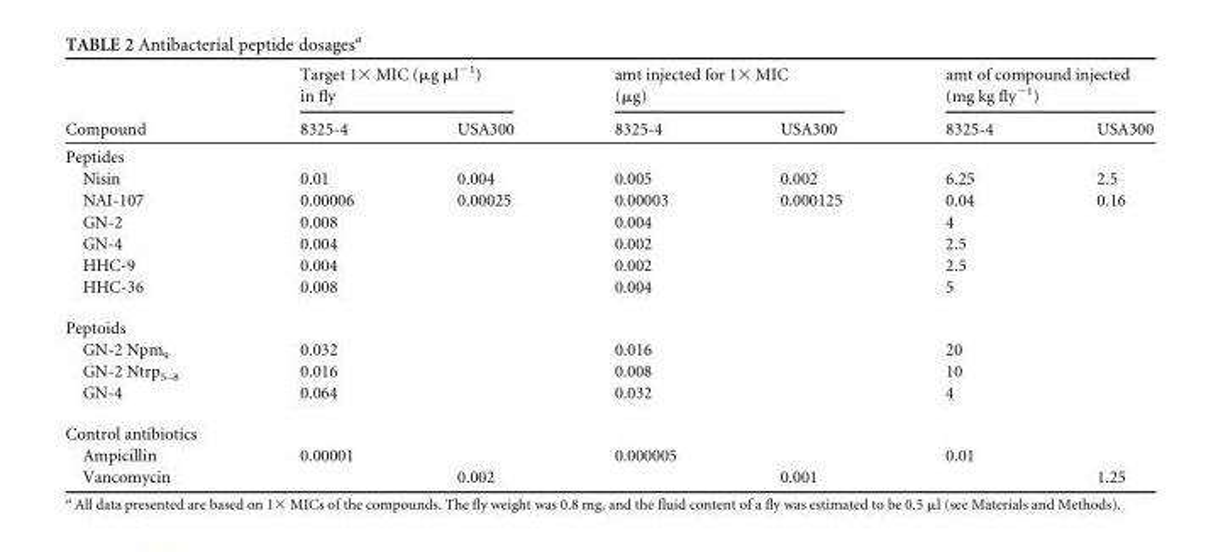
<table><thead><tr><td rowspan="2">Compound</td><td colspan="2">Target 1× MIC (μg μl<sup>−1</sup>) in fly</td><td colspan="2">amt injected for 1× MIC (μg)</td><td colspan="2">amt of compound injected (mg kg fly<sup>−1</sup>)</td></tr><tr><td>8325-4</td><td>USA300</td><td>8325-4</td><td>USA300</td><td>8325-4</td><td>USA300</td></tr></thead><tbody><tr><td colspan="7">Peptides</td></tr><tr><td>Nisin</td><td>0.01</td><td>0.004</td><td>0.005</td><td>0.002</td><td>6.25</td><td>2.5</td></tr><tr><td>NAI-107</td><td>0.00006</td><td>0.00025</td><td>0.00003</td><td>0.000125</td><td>0.04</td><td>0.16</td></tr><tr><td>GN-2</td><td>0.008</td><td></td><td>0.004</td><td></td><td>4</td><td></td></tr><tr><td>GN-4</td><td>0.004</td><td></td><td>0.002</td><td></td><td>2.5</td><td></td></tr><tr><td>HHC-9</td><td>0.004</td><td></td><td>0.002</td><td></td><td>2.5</td><td></td></tr><tr><td>HHC-36</td><td>0.008</td><td></td><td>0.004</td><td></td><td>5</td><td></td></tr><tr><td colspan="7">Peptoids</td></tr><tr><td>GN-2 Npm<sub>9</sub></td><td>0.032</td><td></td><td>0.016</td><td></td><td>20</td><td></td></tr><tr><td>GN-2 Ntrp<sub>5–8</sub></td><td>0.016</td><td></td><td>0.008</td><td></td><td>10</td><td></td></tr><tr><td>GN-4</td><td>0.064</td><td></td><td>0.032</td><td></td><td>4</td><td></td></tr><tr><td colspan="7">Control antibiotics</td></tr><tr><td>Ampicillin</td><td>0.00001</td><td></td><td>0.000005</td><td></td><td>0.01</td><td></td></tr><tr><td>Vancomycin</td><td></td><td>0.002</td><td></td><td>0.001</td><td></td><td>1.25</td></tr></tbody></table>